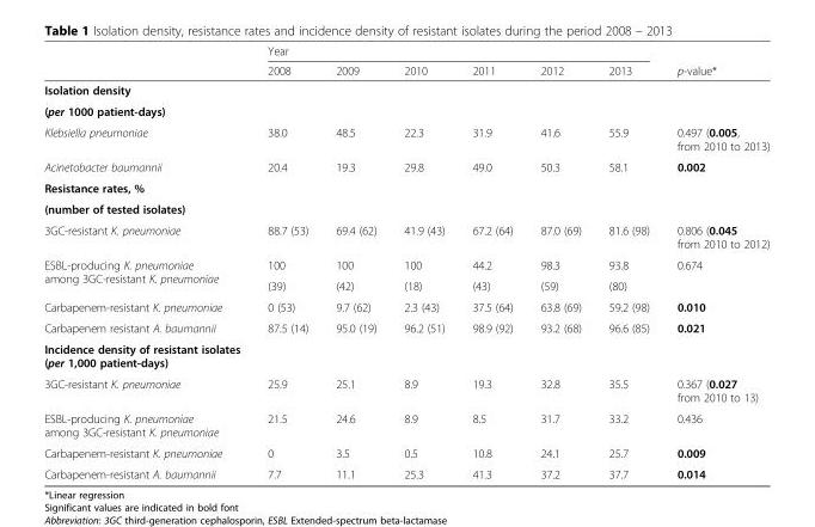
<table><thead><tr><td rowspan="2"></td><td colspan="6">Year</td><td rowspan="2">p-value*</td></tr><tr><td>2008</td><td>2009</td><td>2010</td><td>2011</td><td>2012</td><td>2013</td></tr></thead><tbody><tr><td>Isolation density</td><td rowspan="2"></td><td rowspan="2"></td><td rowspan="2"></td><td rowspan="2"></td><td rowspan="2"></td><td rowspan="2"></td><td rowspan="2"></td></tr><tr><td>(per 1000 patient-days)</td></tr><tr><td>Klebsiella pneumoniae</td><td>38.0</td><td>48.5</td><td>22.3</td><td>31.9</td><td>41.6</td><td>55.9</td><td>0.497 (0.005, from 2010 to 2013)</td></tr><tr><td>Acinetobacter baumannii</td><td>20.4</td><td>19.3</td><td>29.8</td><td>49.0</td><td>50.3</td><td>58.1</td><td>0.002</td></tr><tr><td>Resistance rates, %</td><td rowspan="2"></td><td rowspan="2"></td><td rowspan="2"></td><td rowspan="2"></td><td rowspan="2"></td><td rowspan="2"></td><td rowspan="2"></td></tr><tr><td>(number of tested isolates)</td></tr><tr><td>3GC-resistant K. pneumoniae</td><td>88.7 (53)</td><td>69.4 (62)</td><td>41.9 (43)</td><td>67.2 (64)</td><td>87.0 (69)</td><td>81.6 (98)</td><td>0.806 (0.045 from 2010 to 2012)</td></tr><tr><td rowspan="2">ESBL-producing K. pneumoniae among 3GC-resistant K. pneumoniae</td><td>100</td><td>100</td><td>100</td><td>44.2</td><td>98.3</td><td>93.8</td><td>0.674</td></tr><tr><td>(39)</td><td>(42)</td><td>(18)</td><td>(43)</td><td>(59)</td><td>(80)</td><td></td></tr><tr><td>Carbapenem-resistant K. pneumoniae</td><td>0 (53)</td><td>9.7 (62)</td><td>2.3 (43)</td><td>37.5 (64)</td><td>63.8 (69)</td><td>59.2 (98)</td><td>0.010</td></tr><tr><td>Carbapenem resistant A. baumannii</td><td>87.5 (14)</td><td>95.0 (19)</td><td>96.2 (51)</td><td>98.9 (92)</td><td>93.2 (68)</td><td>96.6 (85)</td><td>0.021</td></tr><tr><td colspan="8">Incidence density of resistant isolates (per 1,000 patient-days)</td></tr><tr><td>3GC-resistant K. pneumoniae</td><td>25.9</td><td>25.1</td><td>8.9</td><td>19.3</td><td>32.8</td><td>35.5</td><td>0.367 (0.027 from 2010 to 13)</td></tr><tr><td>ESBL-producing K. pneumoniae among 3GC-resistant K. pneumoniae</td><td>21.5</td><td>24.6</td><td>8.9</td><td>8.5</td><td>31.7</td><td>33.2</td><td>0.436</td></tr><tr><td>Carbapenem-resistant K. pneumoniae</td><td>0</td><td>3.5</td><td>0.5</td><td>10.8</td><td>24.1</td><td>25.7</td><td>0.009</td></tr><tr><td>Carbapenem-resistant A. baumannii</td><td>7.7</td><td>11.1</td><td>25.3</td><td>41.3</td><td>37.2</td><td>37.7</td><td>0.014</td></tr></tbody></table>